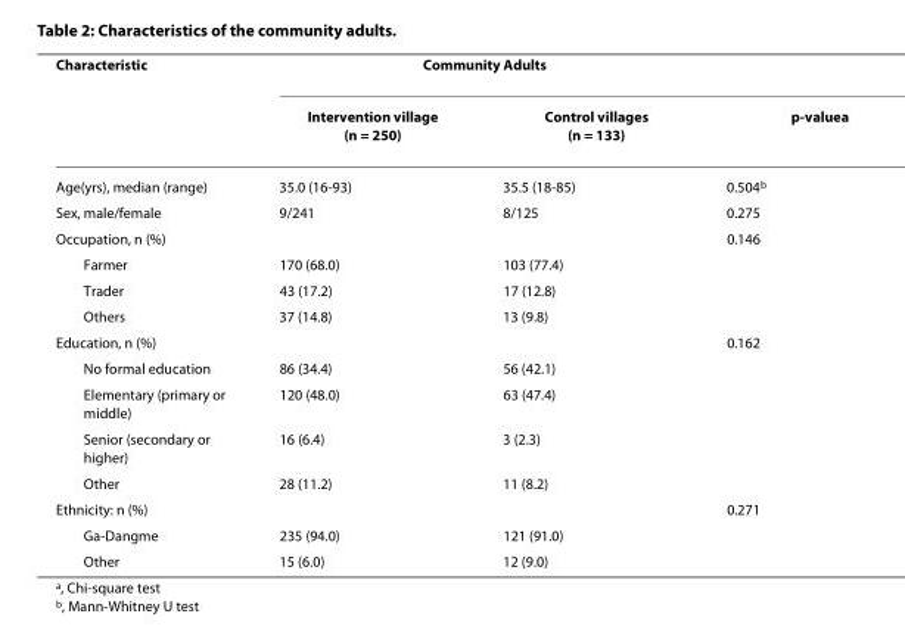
<table><thead><tr><td rowspan="2">Characteristic</td><td colspan="2">Community Adults</td><td rowspan="2">p-value<sup>a</sup></td></tr><tr><td>Intervention village (n = 250)</td><td>Control villages (n = 133)</td></tr></thead><tbody><tr><td>Age(yrs), median (range)</td><td>35.0 (16-93)</td><td>35.5 (18-85)</td><td>0.504<sup>b</sup></td></tr><tr><td>Sex, male/female</td><td>9/241</td><td>8/125</td><td>0.275</td></tr><tr><td>Occupation, n (%)</td><td></td><td></td><td>0.146</td></tr><tr><td>Farmer</td><td>170 (68.0)</td><td>103 (77.4)</td><td></td></tr><tr><td>Trader</td><td>43 (17.2)</td><td>17 (12.8)</td><td></td></tr><tr><td>Others</td><td>37 (14.8)</td><td>13 (9.8)</td><td></td></tr><tr><td>Education, n (%)</td><td></td><td></td><td>0.162</td></tr><tr><td>No formal education</td><td>86 (34.4)</td><td>56 (42.1)</td><td></td></tr><tr><td>Elementary (primary or middle)</td><td>120 (48.0)</td><td>63 (47.4)</td><td></td></tr><tr><td>Senior (secondary or higher)</td><td>16 (6.4)</td><td>3 (2.3)</td><td></td></tr><tr><td>Other</td><td>28 (11.2)</td><td>11 (8.2)</td><td></td></tr><tr><td>Ethnicity: n (%)</td><td></td><td></td><td>0.271</td></tr><tr><td>Ga-Dangme</td><td>235 (94.0)</td><td>121 (91.0)</td><td></td></tr><tr><td>Other</td><td>15 (6.0)</td><td>12 (9.0)</td><td></td></tr></tbody></table>